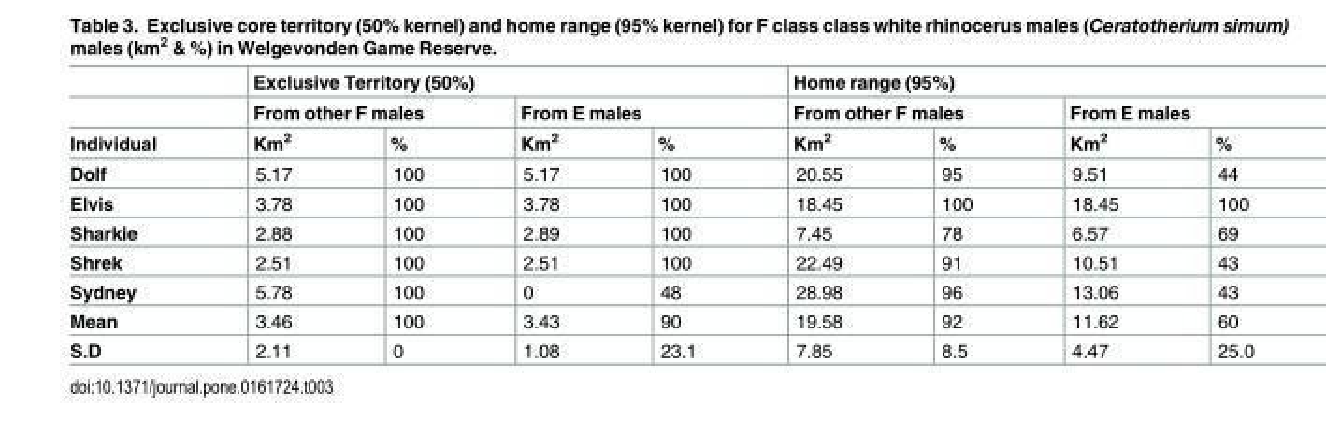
<table><thead><tr><td rowspan="3">Individual</td><td colspan="4">Exclusive Territory (50%)</td><td colspan="4">Home range (95%)</td></tr><tr><td colspan="2">From other F males</td><td colspan="2">From E males</td><td colspan="2">From other F males</td><td colspan="2">From E males</td></tr><tr><td>Km<sup>2</sup></td><td>%</td><td>Km<sup>2</sup></td><td>%</td><td>Km<sup>2</sup></td><td>%</td><td>Km<sup>2</sup></td><td>%</td></tr></thead><tbody><tr><td>Dolf</td><td>5.17</td><td>100</td><td>5.17</td><td>100</td><td>20.55</td><td>95</td><td>9.51</td><td>44</td></tr><tr><td>Elvis</td><td>3.78</td><td>100</td><td>3.78</td><td>100</td><td>18.45</td><td>100</td><td>18.45</td><td>100</td></tr><tr><td>Sharkie</td><td>2.88</td><td>100</td><td>2.89</td><td>100</td><td>7.45</td><td>78</td><td>6.57</td><td>69</td></tr><tr><td>Shrek</td><td>2.51</td><td>100</td><td>2.51</td><td>100</td><td>22.49</td><td>91</td><td>10.51</td><td>43</td></tr><tr><td>Sydney</td><td>5.78</td><td>100</td><td>0</td><td>48</td><td>28.98</td><td>96</td><td>13.06</td><td>43</td></tr><tr><td>Mean</td><td>3.46</td><td>100</td><td>3.43</td><td>90</td><td>19.58</td><td>92</td><td>11.62</td><td>60</td></tr><tr><td>S.D</td><td>2.11</td><td>0</td><td>1.08</td><td>23.1</td><td>7.85</td><td>8.5</td><td>4.47</td><td>25.0</td></tr></tbody></table>